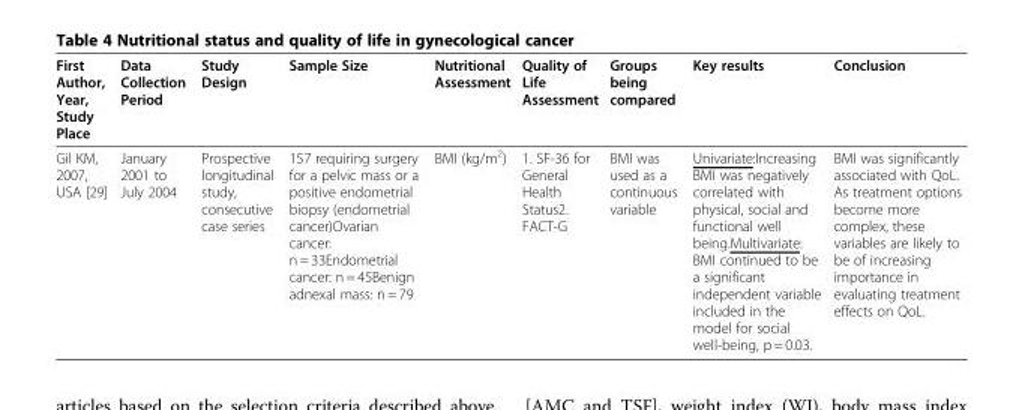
<table><thead><tr><td>First Author, Year, Study Place</td><td>Data Collection Period</td><td>Study Design</td><td>Sample Size</td><td>Nutritional Assessment</td><td>Quality of Life Assessment</td><td>Groups being compared</td><td>Key results</td><td>Conclusion</td></tr></thead><tbody><tr><td>Gil KM, 2007, USA [29]</td><td>January 2001 to July 2004</td><td>Prospective longitudinal study, consecutive case series</td><td>157 requiring surgery for a pelvic mass or a positive endometrial biopsy (endometrial cancer)Ovarian cancer: n = 33Endometrial cancer: n = 45Benign adnexal mass: n = 79</td><td>BMI (kg/m<sup>2</sup>)</td><td>1. SF-36 for General Health Status2. FACT-G</td><td>BMI was used as a continuous variable</td><td>Univariate:Increasing BMI was negatively correlated with physical, social and functional well being.Multivariate: BMI continued to be a significant independent variable included in the model for social well-being, p = 0.03.</td><td>BMI was significantly associated with QoL. As treatment options become more complex, these variables are likely to be of increasing importance in evaluating treatment effects on QoL.</td></tr></tbody></table>